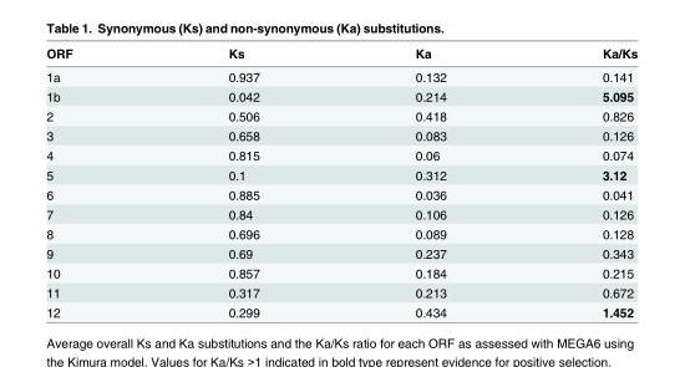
<table><thead><tr><td>ORF</td><td>Ks</td><td>Ka</td><td>Ka/Ks</td></tr></thead><tbody><tr><td>1a</td><td>0.937</td><td>0.132</td><td>0.141</td></tr><tr><td>1b</td><td>0.042</td><td>0.214</td><td>5.095</td></tr><tr><td>2</td><td>0.506</td><td>0.418</td><td>0.826</td></tr><tr><td>3</td><td>0.658</td><td>0.083</td><td>0.126</td></tr><tr><td>4</td><td>0.815</td><td>0.06</td><td>0.074</td></tr><tr><td>5</td><td>0.1</td><td>0.312</td><td>3.12</td></tr><tr><td>6</td><td>0.885</td><td>0.036</td><td>0.041</td></tr><tr><td>7</td><td>0.84</td><td>0.106</td><td>0.126</td></tr><tr><td>8</td><td>0.696</td><td>0.089</td><td>0.128</td></tr><tr><td>9</td><td>0.69</td><td>0.237</td><td>0.343</td></tr><tr><td>10</td><td>0.857</td><td>0.184</td><td>0.215</td></tr><tr><td>11</td><td>0.317</td><td>0.213</td><td>0.672</td></tr><tr><td>12</td><td>0.299</td><td>0.434</td><td>1.452</td></tr></tbody></table>